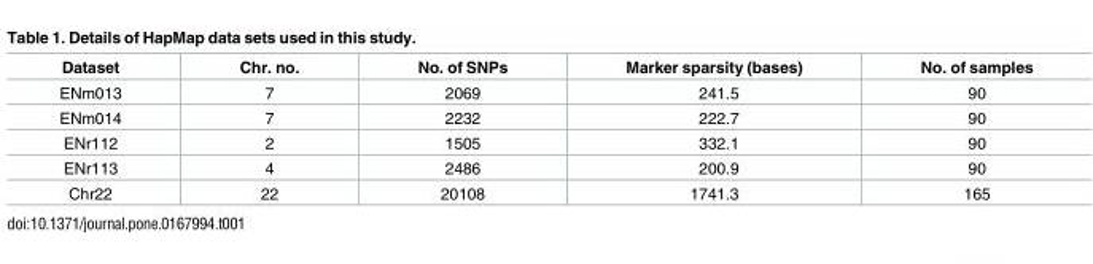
<table><thead><tr><td>Dataset</td><td>Chr. no.</td><td>No. of SNPs</td><td>Marker sparsity (bases)</td><td>No. of samples</td></tr></thead><tbody><tr><td>ENm013</td><td>7</td><td>2069</td><td>241.5</td><td>90</td></tr><tr><td>ENm014</td><td>7</td><td>2232</td><td>222.7</td><td>90</td></tr><tr><td>ENr112</td><td>2</td><td>1505</td><td>332.1</td><td>90</td></tr><tr><td>ENr113</td><td>4</td><td>2486</td><td>200.9</td><td>90</td></tr><tr><td>Chr22</td><td>22</td><td>20108</td><td>1741.3</td><td>165</td></tr></tbody></table>